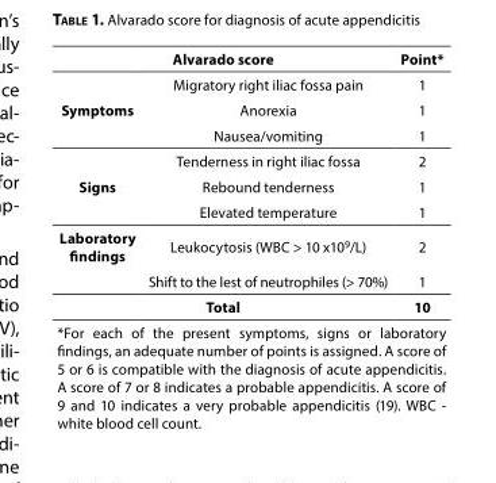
<table><thead><tr><td colspan="2">Alvarado score</td><td rowspan="2">Point* 1</td></tr><tr><td></td><td>Migratory right iliac fossa pain</td></tr></thead><tbody><tr><td rowspan="3">Symptoms</td><td>Anorexia</td><td>1</td></tr><tr><td>Nausea/vomiting</td><td>1</td></tr><tr><td>Tenderness in right iliac fossa</td><td>2</td></tr><tr><td rowspan="2">Signs</td><td>Rebound tenderness</td><td>1</td></tr><tr><td>Elevated temperature</td><td>1</td></tr><tr><td rowspan="2">Laboratory findings</td><td>Leukocytosis (WBC &gt; 10 x10<sup>9</sup>/L)</td><td>2</td></tr><tr><td>Shift to the lest of neutrophiles (&gt; 70%)</td><td>1</td></tr><tr><td colspan="2">Total</td><td>10</td></tr><tr><td colspan="3">*For each of the present symptoms, signs or laboratory findings, an adequate number of points is assigned. A score of 5 or 6 is compatible with the diagnosis of acute appendicitis. A score of 7 or 8 indicates a probable appendicitis. A score of 9 and 10 indicates a very probable appendicitis (19). WBC - white blood cell count.</td></tr></tbody></table>